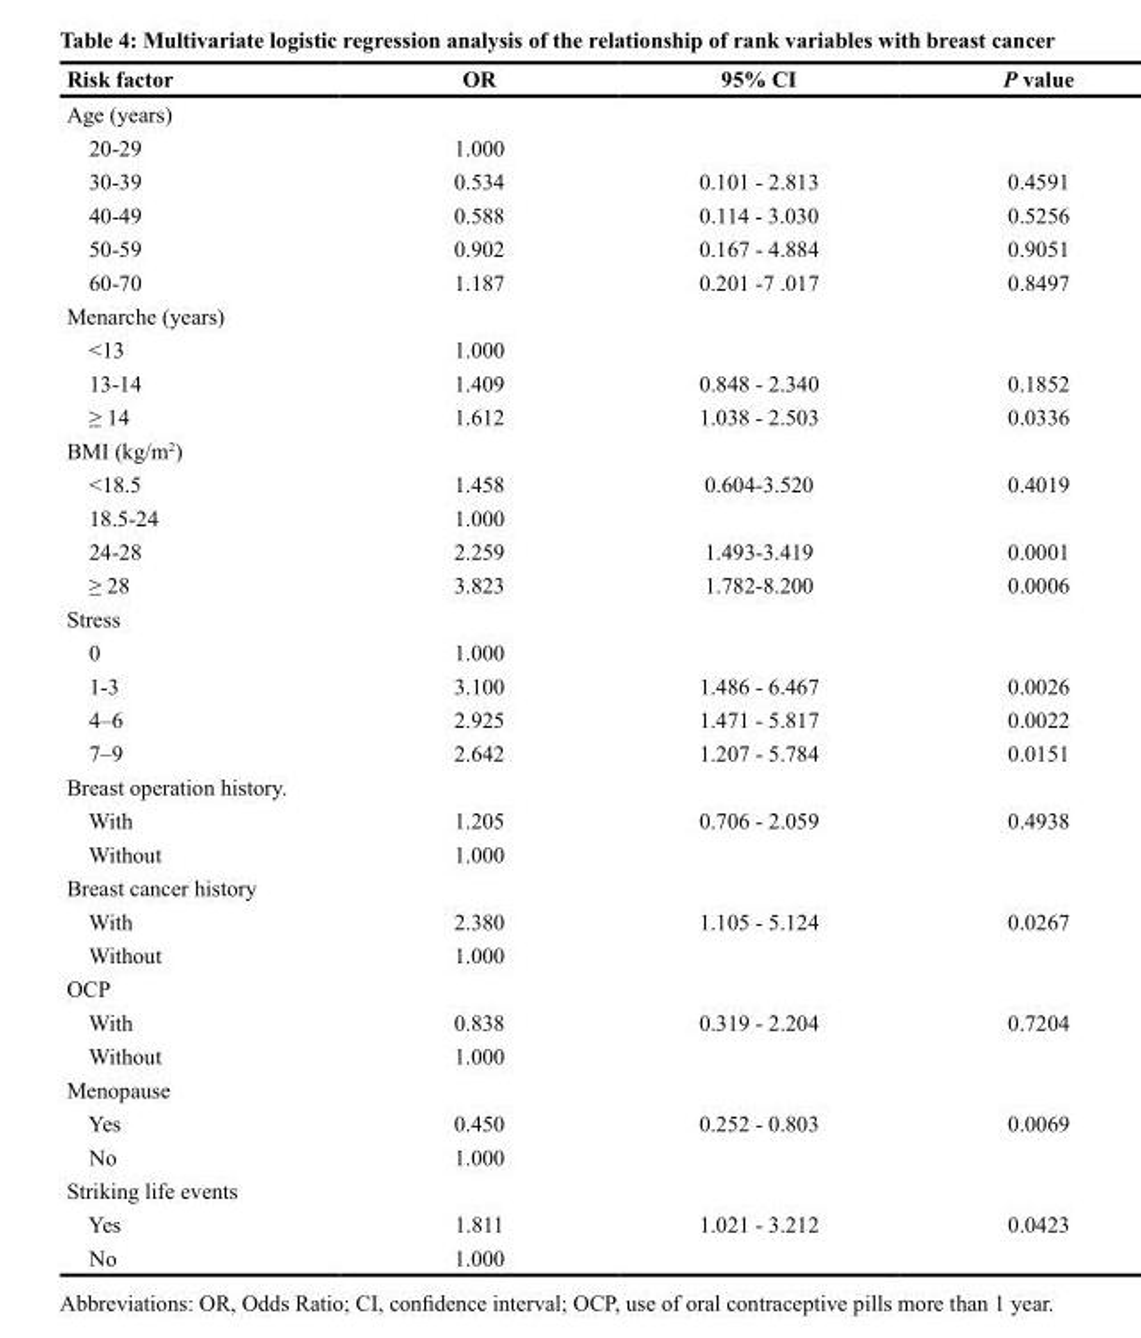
<table><thead><tr><td>Risk factor</td><td>OR</td><td>95% CI</td><td>P value</td></tr></thead><tbody><tr><td colspan="4">Age (years)</td></tr><tr><td>20-29</td><td>1.000</td><td></td><td></td></tr><tr><td>30-39</td><td>0.534</td><td>0.101 - 2.813</td><td>0.4591</td></tr><tr><td>40-49</td><td>0.588</td><td>0.114 - 3.030</td><td>0.5256</td></tr><tr><td>50-59</td><td>0.902</td><td>0.167 - 4.884</td><td>0.9051</td></tr><tr><td>60-70</td><td>1.187</td><td>0.201 -7 .017</td><td>0.8497</td></tr><tr><td colspan="4">Menarche (years)</td></tr><tr><td>&lt;13</td><td>1.000</td><td></td><td></td></tr><tr><td>13-14</td><td>1.409</td><td>0.848 - 2.340</td><td>0.1852</td></tr><tr><td>≥ 14</td><td>1.612</td><td>1.038 - 2.503</td><td>0.0336</td></tr><tr><td colspan="4">BMI (kg/m<sup>2</sup>)</td></tr><tr><td>&lt;18.5</td><td>1.458</td><td>0.604-3.520</td><td>0.4019</td></tr><tr><td>18.5-24</td><td>1.000</td><td></td><td></td></tr><tr><td>24-28</td><td>2.259</td><td>1.493-3.419</td><td>0.0001</td></tr><tr><td>≥ 28</td><td>3.823</td><td>1.782-8.200</td><td>0.0006</td></tr><tr><td colspan="4">Stress</td></tr><tr><td>0</td><td>1.000</td><td></td><td></td></tr><tr><td>1-3</td><td>3.100</td><td>1.486 - 6.467</td><td>0.0026</td></tr><tr><td>4–6</td><td>2.925</td><td>1.471 - 5.817</td><td>0.0022</td></tr><tr><td>7–9</td><td>2.642</td><td>1.207 - 5.784</td><td>0.0151</td></tr><tr><td colspan="4">Breast operation history.</td></tr><tr><td>With</td><td>1.205</td><td>0.706 - 2.059</td><td>0.4938</td></tr><tr><td>Without</td><td>1.000</td><td></td><td></td></tr><tr><td colspan="4">Breast cancer history</td></tr><tr><td>With</td><td>2.380</td><td>1.105 - 5.124</td><td>0.0267</td></tr><tr><td>Without</td><td>1.000</td><td></td><td></td></tr><tr><td colspan="4">OCP</td></tr><tr><td>With</td><td>0.838</td><td>0.319 - 2.204</td><td>0.7204</td></tr><tr><td>Without</td><td>1.000</td><td></td><td></td></tr><tr><td colspan="4">Menopause</td></tr><tr><td>Yes</td><td>0.450</td><td>0.252 - 0.803</td><td>0.0069</td></tr><tr><td>No</td><td>1.000</td><td></td><td></td></tr><tr><td colspan="4">Striking life events</td></tr><tr><td>Yes</td><td>1.811</td><td>1.021 - 3.212</td><td>0.0423</td></tr><tr><td>No</td><td>1.000</td><td></td><td></td></tr></tbody></table>